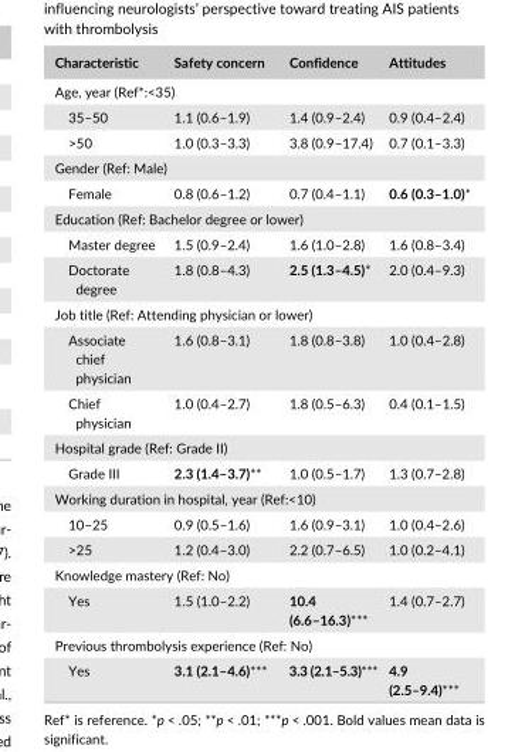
<table><thead><tr><td>Characteristic</td><td>Safety concern</td><td>Confidence</td><td>Attitudes</td></tr></thead><tbody><tr><td colspan="4">Age, year (Ref*:&lt;35)</td></tr><tr><td>35–50</td><td>1.1 (0.6–1.9)</td><td>1.4 (0.9–2.4)</td><td>0.9 (0.4–2.4)</td></tr><tr><td>&gt;50</td><td>1.0 (0.3–3.3)</td><td>3.8 (0.9–17.4)</td><td>0.7 (0.1–3.3)</td></tr><tr><td colspan="4">Gender (Ref: Male)</td></tr><tr><td>Female</td><td>0.8 (0.6–1.2)</td><td>0.7 (0.4–1.1)</td><td>0.6 (0.3–1.0)*</td></tr><tr><td colspan="4">Education (Ref: Bachelor degree or lower)</td></tr><tr><td>Master degree</td><td>1.5 (0.9–2.4)</td><td>1.6 (1.0–2.8)</td><td>1.6 (0.8–3.4)</td></tr><tr><td>Doctorate degree</td><td>1.8 (0.8–4.3)</td><td>2.5 (1.3–4.5)*</td><td>2.0 (0.4–9.3)</td></tr><tr><td colspan="4">Job title (Ref: Attending physician or lower)</td></tr><tr><td>Associate chief physician</td><td>1.6 (0.8–3.1)</td><td>1.8 (0.8–3.8)</td><td>1.0 (0.4–2.8)</td></tr><tr><td>Chief physician</td><td>1.0 (0.4–2.7)</td><td>1.8 (0.5–6.3)</td><td>0.4 (0.1–1.5)</td></tr><tr><td colspan="4">Hospital grade (Ref: Grade II)</td></tr><tr><td>Grade III</td><td>2.3 (1.4–3.7)**</td><td>1.0 (0.5–1.7)</td><td>1.3 (0.7–2.8)</td></tr><tr><td colspan="4">Working duration in hospital, year (Ref:&lt;10)</td></tr><tr><td>10–25</td><td>0.9 (0.5–1.6)</td><td>1.6 (0.9–3.1)</td><td>1.0 (0.4–2.6)</td></tr><tr><td>&gt;25</td><td>1.2 (0.4–3.0)</td><td>2.2 (0.7–6.5)</td><td>1.0 (0.2–4.1)</td></tr><tr><td colspan="4">Knowledge mastery (Ref: No)</td></tr><tr><td>Yes</td><td>1.5 (1.0–2.2)</td><td>10.4 (6.6–16.3)***</td><td>1.4 (0.7–2.7)</td></tr><tr><td colspan="4">Previous thrombolysis experience (Ref: No)</td></tr><tr><td>Yes</td><td>3.1 (2.1–4.6)***</td><td>3.3 (2.1–5.3)***</td><td>4.9 (2.5–9.4)***</td></tr></tbody></table>